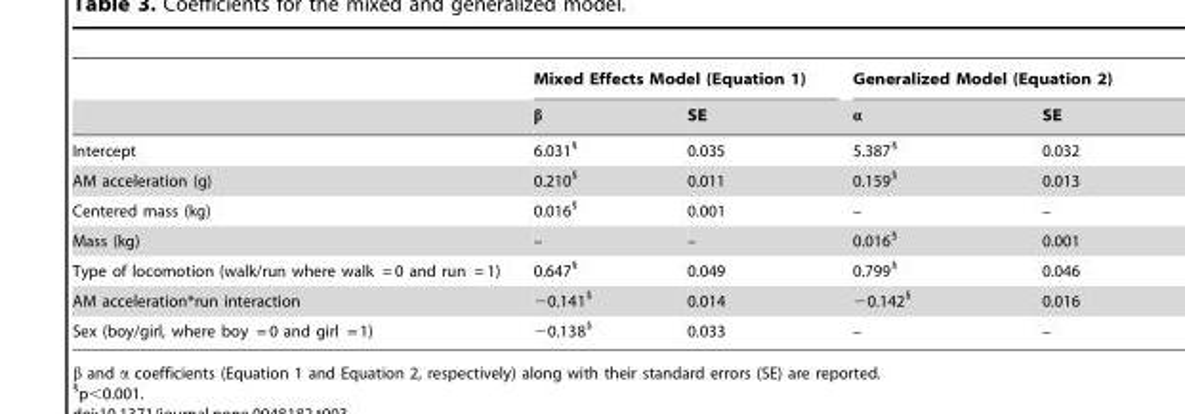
<table><thead><tr><td rowspan="2"></td><td colspan="2">Mixed Effects Model (Equation 1)</td><td colspan="2">Generalized Model (Equation 2)</td></tr><tr><td>β</td><td>SE</td><td>α</td><td>SE</td></tr></thead><tbody><tr><td>Intercept</td><td>6.031§</td><td>0.035</td><td>5.387§</td><td>0.032</td></tr><tr><td>AM acceleration (g)</td><td>0.210§</td><td>0.011</td><td>0.159§</td><td>0.013</td></tr><tr><td>Centered mass (kg)</td><td>0.016§</td><td>0.001</td><td>–</td><td>–</td></tr><tr><td>Mass (kg)</td><td>–</td><td>–</td><td>0.016§</td><td>0.001</td></tr><tr><td>Type of locomotion (walk/run where walk = 0 and run = 1)</td><td>0.647§</td><td>0.049</td><td>0.799§</td><td>0.046</td></tr><tr><td>AM acceleration*run interaction</td><td>−0.141§</td><td>0.014</td><td>−0.142§</td><td>0.016</td></tr><tr><td>Sex (boy/girl, where boy = 0 and girl = 1)</td><td>−0.138§</td><td>0.033</td><td>–</td><td>–</td></tr></tbody></table>